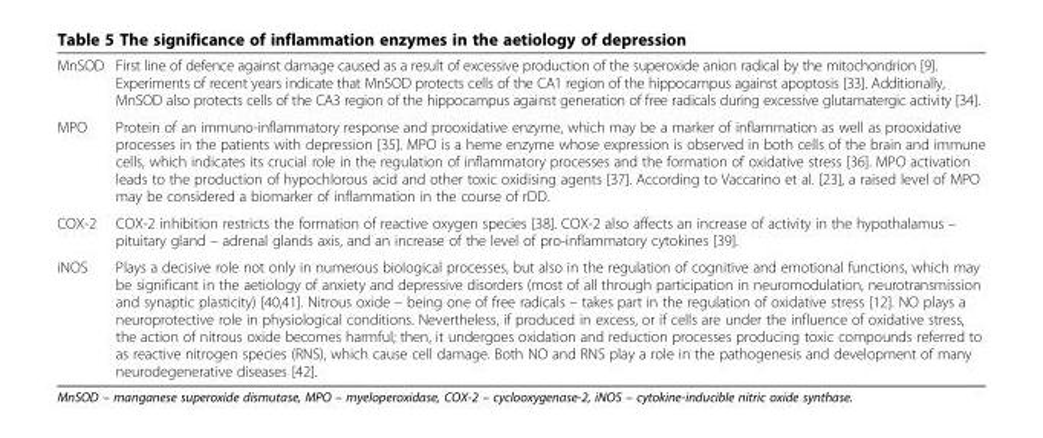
<table><tbody><tr><td>MnSOD</td><td>First line of defence against damage caused as a result of excessive production of the superoxide anion radical by the mitochondrion [9]. Experiments of recent years indicate that MnSOD protects cells of the CA1 region of the hippocampus against apoptosis [33]. Additionally, MnSOD also protects cells of the CA3 region of the hippocampus against generation of free radicals during excessive glutamatergic activity [34].</td></tr><tr><td>MPO</td><td>Protein of an immuno-inflammatory response and prooxidative enzyme, which may be a marker of inflammation as well as prooxidative processes in the patients with depression [35]. MPO is a heme enzyme whose expression is observed in both cells of the brain and immune cells, which indicates its crucial role in the regulation of inflammatory processes and the formation of oxidative stress [36]. MPO activation leads to the production of hypochlorous acid and other toxic oxidising agents [37]. According to Vaccarino et al. [23], a raised level of MPO may be considered a biomarker of inflammation in the course of rDD.</td></tr><tr><td>COX-2</td><td>COX-2 inhibition restricts the formation of reactive oxygen species [38]. COX-2 also affects an increase of activity in the hypothalamus – pituitary gland – adrenal glands axis, and an increase of the level of pro-inflammatory cytokines [39].</td></tr><tr><td>iNOS</td><td>Plays a decisive role not only in numerous biological processes, but also in the regulation of cognitive and emotional functions, which may be significant in the aetiology of anxiety and depressive disorders (most of all through participation in neuromodulation, neurotransmission and synaptic plasticity) [40,41]. Nitrous oxide – being one of free radicals – takes part in the regulation of oxidative stress [12]. NO plays a neuroprotective role in physiological conditions. Nevertheless, if produced in excess, or if cells are under the influence of oxidative stress, the action of nitrous oxide becomes harmful; then, it undergoes oxidation and reduction processes producing toxic compounds referred to as reactive nitrogen species (RNS), which cause cell damage. Both NO and RNS play a role in the pathogenesis and development of many neurodegenerative diseases [42].</td></tr></tbody></table>